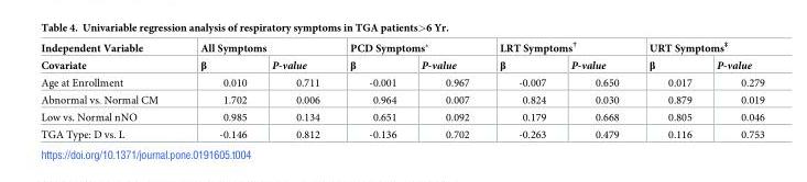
<table><thead><tr><td rowspan="2">Independent Variable Covariate</td><td colspan="2">All Symptoms</td><td colspan="2">PCD Symptoms*</td><td colspan="2">LRT Symptoms<sup>†</sup></td><td colspan="2">URT Symptoms<sup>‡</sup></td></tr><tr><td>β</td><td>P-value</td><td>β</td><td>P-value</td><td>β</td><td>P-value</td><td>β</td><td>P-value</td></tr></thead><tbody><tr><td>Age at Enrollment</td><td>0.010</td><td>0.711</td><td>-0.001</td><td>0.967</td><td>-0.007</td><td>0.650</td><td>0.017</td><td>0.279</td></tr><tr><td>Abnormal vs. Normal CM</td><td>1.702</td><td>0.006</td><td>0.964</td><td>0.007</td><td>0.824</td><td>0.030</td><td>0.879</td><td>0.019</td></tr><tr><td>Low vs. Normal nNO</td><td>0.985</td><td>0.134</td><td>0.651</td><td>0.092</td><td>0.179</td><td>0.668</td><td>0.805</td><td>0.046</td></tr><tr><td>TGA Type: D vs. L</td><td>-0.146</td><td>0.812</td><td>-0.136</td><td>0.702</td><td>-0.263</td><td>0.479</td><td>0.116</td><td>0.753</td></tr></tbody></table>